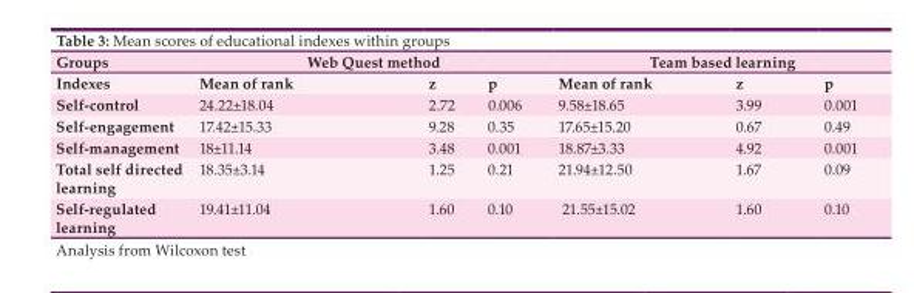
<table><thead><tr><td rowspan="2">Groups Indexes</td><td colspan="3">Web Quest method</td><td colspan="3">Team based learning</td></tr><tr><td>Mean of rank</td><td>z</td><td>p</td><td>Mean of rank</td><td>z</td><td>p</td></tr></thead><tbody><tr><td>Self-control</td><td>24.22±18.04</td><td>2.72</td><td>0.006</td><td>9.58±18.65</td><td>3.99</td><td>0.001</td></tr><tr><td>Self-engagement</td><td>17.42±15.33</td><td>9.28</td><td>0.35</td><td>17.65±15.20</td><td>0.67</td><td>0.49</td></tr><tr><td>Self-management</td><td>18±11.14</td><td>3.48</td><td>0.001</td><td>18.87±3.33</td><td>4.92</td><td>0.001</td></tr><tr><td>Total self directed learning</td><td>18.35±3.14</td><td>1.25</td><td>0.21</td><td>21.94±12.50</td><td>1.67</td><td>0.09</td></tr><tr><td>Self-regulated learning</td><td>19.41±11.04</td><td>1.60</td><td>0.10</td><td>21.55±15.02</td><td>1.60</td><td>0.10</td></tr></tbody></table>